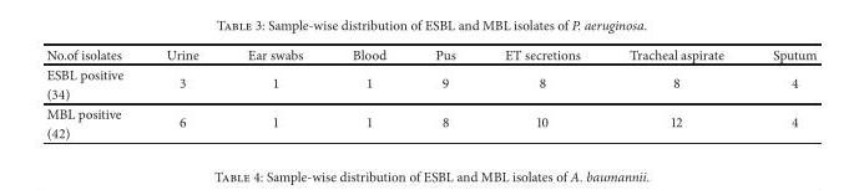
<table><thead><tr><td>No.of isolates</td><td>Urine</td><td>Ear swabs</td><td>Blood</td><td>Pus</td><td>ET secretions</td><td>Tracheal aspirate</td><td>Sputum</td></tr></thead><tbody><tr><td>ESBL positive</td><td rowspan="2">3</td><td rowspan="2">1</td><td rowspan="2">1</td><td rowspan="2">9</td><td rowspan="2">8</td><td rowspan="2">8</td><td rowspan="2">4</td></tr><tr><td>(34)</td></tr><tr><td>MBL positive</td><td rowspan="2">6</td><td rowspan="2">1</td><td rowspan="2">1</td><td rowspan="2">8</td><td rowspan="2">10</td><td rowspan="2">12</td><td rowspan="2">4</td></tr><tr><td>(42)</td></tr></tbody></table>